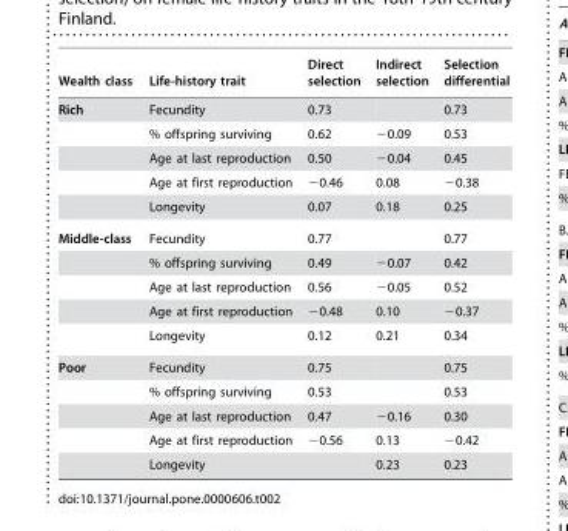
<table><thead><tr><td>Wealth class</td><td>Life-history trait</td><td>Direct selection</td><td>Indirect selection</td><td>Selection differential</td></tr></thead><tbody><tr><td rowspan="5">Rich</td><td>Fecundity</td><td>0.73</td><td></td><td>0.73</td></tr><tr><td>% offspring surviving</td><td>0.62</td><td>−0.09</td><td>0.53</td></tr><tr><td>Age at last reproduction</td><td>0.50</td><td>−0.04</td><td>0.45</td></tr><tr><td>Age at first reproduction</td><td>−0.46</td><td>0.08</td><td>−0.38</td></tr><tr><td>Longevity</td><td>0.07</td><td>0.18</td><td>0.25</td></tr><tr><td rowspan="5">Middle-class</td><td>Fecundity</td><td>0.77</td><td></td><td>0.77</td></tr><tr><td>% offspring surviving</td><td>0.49</td><td>−0.07</td><td>0.42</td></tr><tr><td>Age at last reproduction</td><td>0.56</td><td>−0.05</td><td>0.52</td></tr><tr><td>Age at first reproduction</td><td>−0.48</td><td>0.10</td><td>−0.37</td></tr><tr><td>Longevity</td><td>0.12</td><td>0.21</td><td>0.34</td></tr><tr><td rowspan="5">Poor</td><td>Fecundity</td><td>0.75</td><td></td><td>0.75</td></tr><tr><td>% offspring surviving</td><td>0.53</td><td></td><td>0.53</td></tr><tr><td>Age at last reproduction</td><td>0.47</td><td>−0.16</td><td>0.30</td></tr><tr><td>Age at first reproduction</td><td>−0.56</td><td>0.13</td><td>−0.42</td></tr><tr><td>Longevity</td><td></td><td>0.23</td><td>0.23</td></tr></tbody></table>